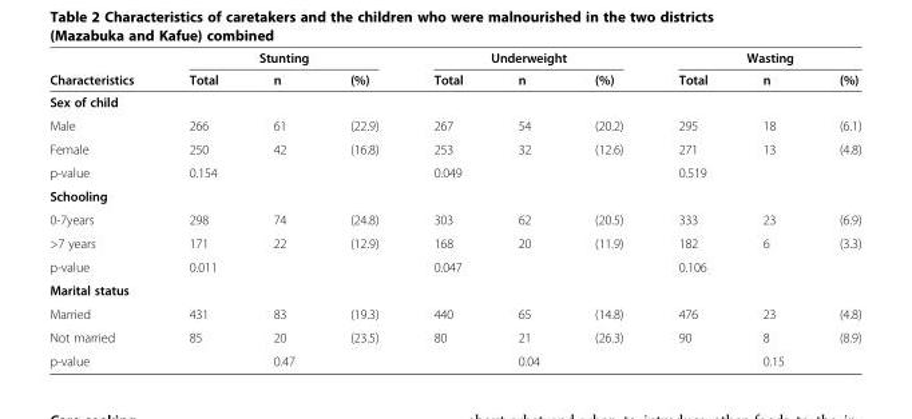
<table><thead><tr><td rowspan="2">Characteristics</td><td colspan="3">Stunting</td><td colspan="3">Underweight</td><td colspan="3">Wasting</td></tr><tr><td>Total</td><td>n</td><td>(%)</td><td>Total</td><td>n</td><td>(%)</td><td>Total</td><td>n</td><td>(%)</td></tr></thead><tbody><tr><td colspan="10">Sex of child</td></tr><tr><td>Male</td><td>266</td><td>61</td><td>(22.9)</td><td>267</td><td>54</td><td>(20.2)</td><td>295</td><td>18</td><td>(6.1)</td></tr><tr><td>Female</td><td>250</td><td>42</td><td>(16.8)</td><td>253</td><td>32</td><td>(12.6)</td><td>271</td><td>13</td><td>(4.8)</td></tr><tr><td>p-value</td><td>0.154</td><td></td><td></td><td>0.049</td><td></td><td></td><td>0.519</td><td></td><td></td></tr><tr><td colspan="10">Schooling</td></tr><tr><td>0-7years</td><td>298</td><td>74</td><td>(24.8)</td><td>303</td><td>62</td><td>(20.5)</td><td>333</td><td>23</td><td>(6.9)</td></tr><tr><td>&gt;7 years</td><td>171</td><td>22</td><td>(12.9)</td><td>168</td><td>20</td><td>(11.9)</td><td>182</td><td>6</td><td>(3.3)</td></tr><tr><td>p-value</td><td>0.011</td><td></td><td></td><td>0.047</td><td></td><td></td><td>0.106</td><td></td><td></td></tr><tr><td colspan="10">Marital status</td></tr><tr><td>Married</td><td>431</td><td>83</td><td>(19.3)</td><td>440</td><td>65</td><td>(14.8)</td><td>476</td><td>23</td><td>(4.8)</td></tr><tr><td>Not married</td><td>85</td><td>20</td><td>(23.5)</td><td>80</td><td>21</td><td>(26.3)</td><td>90</td><td>8</td><td>(8.9)</td></tr><tr><td>p-value</td><td></td><td>0.47</td><td></td><td></td><td>0.04</td><td></td><td></td><td>0.15</td><td></td></tr></tbody></table>